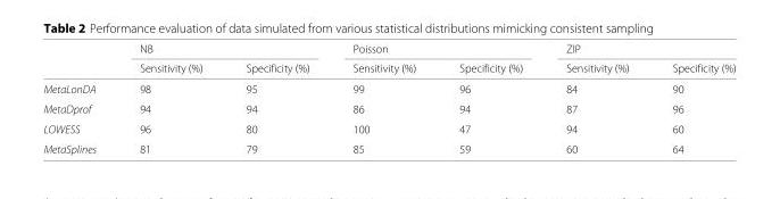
<table><thead><tr><td rowspan="2"></td><td colspan="2">NB</td><td colspan="2">Poisson</td><td colspan="2">ZIP</td></tr><tr><td>Sensitivity (%)</td><td>Specificity (%)</td><td>Sensitivity (%)</td><td>Specificity (%)</td><td>Sensitivity (%)</td><td>Specificity (%)</td></tr></thead><tbody><tr><td>MetaLonDA</td><td>98</td><td>95</td><td>99</td><td>96</td><td>84</td><td>90</td></tr><tr><td>MetaDprof</td><td>94</td><td>94</td><td>86</td><td>94</td><td>87</td><td>96</td></tr><tr><td>LOWESS</td><td>96</td><td>80</td><td>100</td><td>47</td><td>94</td><td>60</td></tr><tr><td>MetaSplines</td><td>81</td><td>79</td><td>85</td><td>59</td><td>60</td><td>64</td></tr></tbody></table>